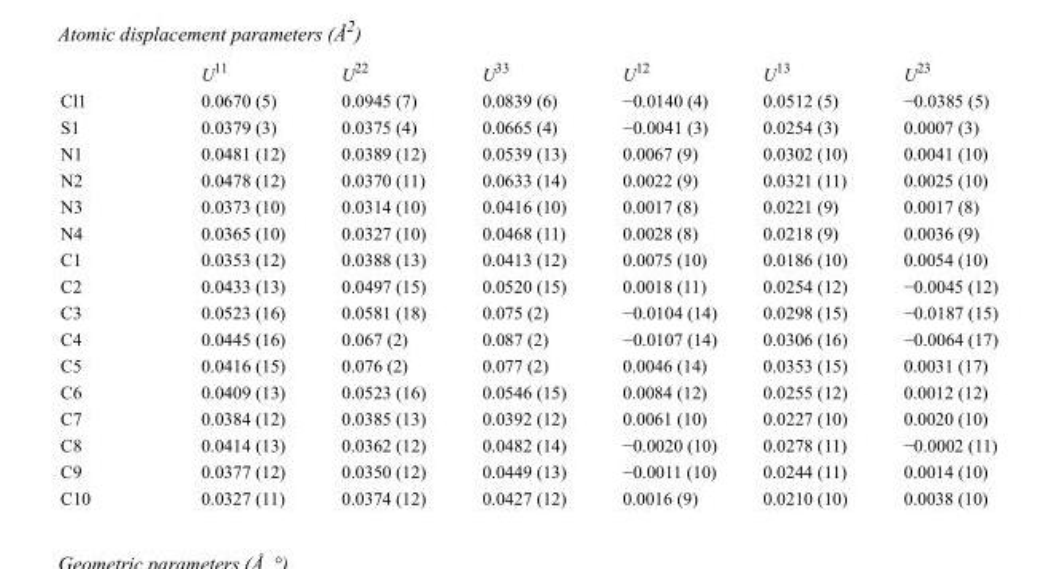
<table><thead><tr><td></td><td>U<sup>11</sup></td><td>U<sup>22</sup></td><td>U<sup>33</sup></td><td>U<sup>12</sup></td><td>U<sup>13</sup></td><td>U<sup>23</sup></td></tr></thead><tbody><tr><td>Cl1</td><td>0.0670 (5)</td><td>0.0945 (7)</td><td>0.0839 (6)</td><td>−0.0140 (4)</td><td>0.0512 (5)</td><td>−0.0385 (5)</td></tr><tr><td>S1</td><td>0.0379 (3)</td><td>0.0375 (4)</td><td>0.0665 (4)</td><td>−0.0041 (3)</td><td>0.0254 (3)</td><td>0.0007 (3)</td></tr><tr><td>N1</td><td>0.0481 (12)</td><td>0.0389 (12)</td><td>0.0539 (13)</td><td>0.0067 (9)</td><td>0.0302 (10)</td><td>0.0041 (10)</td></tr><tr><td>N2</td><td>0.0478 (12)</td><td>0.0370 (11)</td><td>0.0633 (14)</td><td>0.0022 (9)</td><td>0.0321 (11)</td><td>0.0025 (10)</td></tr><tr><td>N3</td><td>0.0373 (10)</td><td>0.0314 (10)</td><td>0.0416 (10)</td><td>0.0017 (8)</td><td>0.0221 (9)</td><td>0.0017 (8)</td></tr><tr><td>N4</td><td>0.0365 (10)</td><td>0.0327 (10)</td><td>0.0468 (11)</td><td>0.0028 (8)</td><td>0.0218 (9)</td><td>0.0036 (9)</td></tr><tr><td>C1</td><td>0.0353 (12)</td><td>0.0388 (13)</td><td>0.0413 (12)</td><td>0.0075 (10)</td><td>0.0186 (10)</td><td>0.0054 (10)</td></tr><tr><td>C2</td><td>0.0433 (13)</td><td>0.0497 (15)</td><td>0.0520 (15)</td><td>0.0018 (11)</td><td>0.0254 (12)</td><td>−0.0045 (12)</td></tr><tr><td>C3</td><td>0.0523 (16)</td><td>0.0581 (18)</td><td>0.075 (2)</td><td>−0.0104 (14)</td><td>0.0298 (15)</td><td>−0.0187 (15)</td></tr><tr><td>C4</td><td>0.0445 (16)</td><td>0.067 (2)</td><td>0.087 (2)</td><td>−0.0107 (14)</td><td>0.0306 (16)</td><td>−0.0064 (17)</td></tr><tr><td>C5</td><td>0.0416 (15)</td><td>0.076 (2)</td><td>0.077 (2)</td><td>0.0046 (14)</td><td>0.0353 (15)</td><td>0.0031 (17)</td></tr><tr><td>C6</td><td>0.0409 (13)</td><td>0.0523 (16)</td><td>0.0546 (15)</td><td>0.0084 (12)</td><td>0.0255 (12)</td><td>0.0012 (12)</td></tr><tr><td>C7</td><td>0.0384 (12)</td><td>0.0385 (13)</td><td>0.0392 (12)</td><td>0.0061 (10)</td><td>0.0227 (10)</td><td>0.0020 (10)</td></tr><tr><td>C8</td><td>0.0414 (13)</td><td>0.0362 (12)</td><td>0.0482 (14)</td><td>−0.0020 (10)</td><td>0.0278 (11)</td><td>−0.0002 (11)</td></tr><tr><td>C9</td><td>0.0377 (12)</td><td>0.0350 (12)</td><td>0.0449 (13)</td><td>−0.0011 (10)</td><td>0.0244 (11)</td><td>0.0014 (10)</td></tr><tr><td>C10</td><td>0.0327 (11)</td><td>0.0374 (12)</td><td>0.0427 (12)</td><td>0.0016 (9)</td><td>0.0210 (10)</td><td>0.0038 (10)</td></tr></tbody></table>